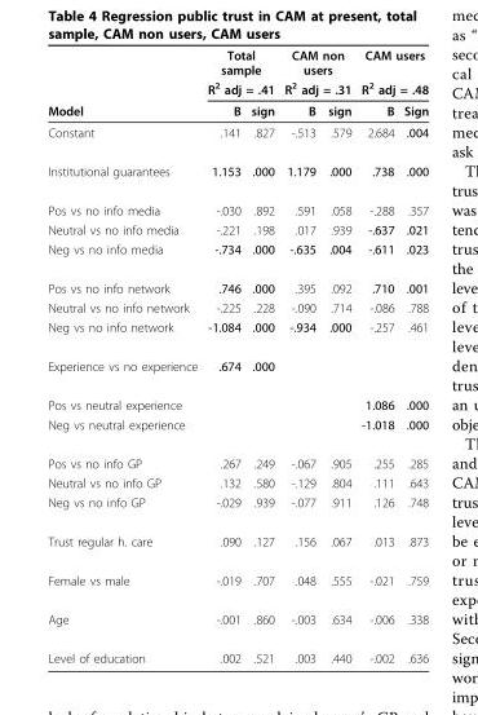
<table><thead><tr><td rowspan="3">Model</td><td rowspan="2" colspan="2">Total sample R<sup>2</sup> adj = .41</td><td rowspan="2" colspan="2">CAM non users R<sup>2</sup> adj = .31</td><td rowspan="2" colspan="2">CAM users R<sup>2</sup> adj = .48</td></tr><tr></tr><tr><td>B</td><td>sign</td><td>B</td><td>sign</td><td>B</td><td>Sign</td></tr></thead><tbody><tr><td>Constant</td><td>.141</td><td>.827</td><td>-.513</td><td>.579</td><td>2.684</td><td>.004</td></tr><tr><td>Institutional guarantees</td><td>1.153</td><td>.000</td><td>1.179</td><td>.000</td><td>.738</td><td>.000</td></tr><tr><td>Pos vs no info media</td><td>-.030</td><td>.892</td><td>.591</td><td>.058</td><td>-.288</td><td>.357</td></tr><tr><td>Neutral vs no info media</td><td>-.221</td><td>.198</td><td>.017</td><td>.939</td><td>-.637</td><td>.021</td></tr><tr><td>Neg vs no info media</td><td>-.734</td><td>.000</td><td>-.635</td><td>.004</td><td>-.611</td><td>.023</td></tr><tr><td>Pos vs no info network</td><td>.746</td><td>.000</td><td>.395</td><td>.092</td><td>.710</td><td>.001</td></tr><tr><td>Neutral vs no info network</td><td>-.225</td><td>.228</td><td>-.090</td><td>.714</td><td>-.086</td><td>.788</td></tr><tr><td>Neg vs no info network</td><td>-1.084</td><td>.000</td><td>-.934</td><td>.000</td><td>-.257</td><td>.461</td></tr><tr><td>Experience vs no experience</td><td>.674</td><td>.000</td><td></td><td></td><td></td><td></td></tr><tr><td>Pos vs neutral experience</td><td></td><td></td><td></td><td></td><td>1.086</td><td>.000</td></tr><tr><td>Neg vs neutral experience</td><td></td><td></td><td></td><td></td><td>-1.018</td><td>.000</td></tr><tr><td>Pos vs no info GP</td><td>.267</td><td>.249</td><td>-.067</td><td>.905</td><td>.255</td><td>.285</td></tr><tr><td>Neutral vs no info GP</td><td>.132</td><td>.580</td><td>-.129</td><td>.804</td><td>.111</td><td>.643</td></tr><tr><td>Neg vs no info GP</td><td>-.029</td><td>.939</td><td>-.077</td><td>.911</td><td>.126</td><td>.748</td></tr><tr><td>Trust regular h. care</td><td>.090</td><td>.127</td><td>.156</td><td>.067</td><td>.013</td><td>.873</td></tr><tr><td>Female vs male</td><td>-.019</td><td>.707</td><td>.048</td><td>.555</td><td>-.021</td><td>.759</td></tr><tr><td>Age</td><td>-.001</td><td>.860</td><td>-.003</td><td>.634</td><td>-.006</td><td>.338</td></tr><tr><td>Level of education</td><td>.002</td><td>.521</td><td>.003</td><td>.440</td><td>-.002</td><td>.636</td></tr></tbody></table>